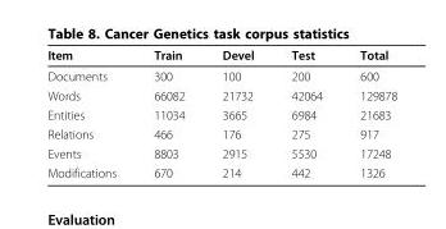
<table><thead><tr><td>Item</td><td>Train</td><td>Devel</td><td>Test</td><td>Total</td></tr></thead><tbody><tr><td>Documents</td><td>300</td><td>100</td><td>200</td><td>600</td></tr><tr><td>Words</td><td>66082</td><td>21732</td><td>42064</td><td>129878</td></tr><tr><td>Entities</td><td>11034</td><td>3665</td><td>6984</td><td>21683</td></tr><tr><td>Relations</td><td>466</td><td>176</td><td>275</td><td>917</td></tr><tr><td>Events</td><td>8803</td><td>2915</td><td>5530</td><td>17248</td></tr><tr><td>Modifications</td><td>670</td><td>214</td><td>442</td><td>1326</td></tr></tbody></table>